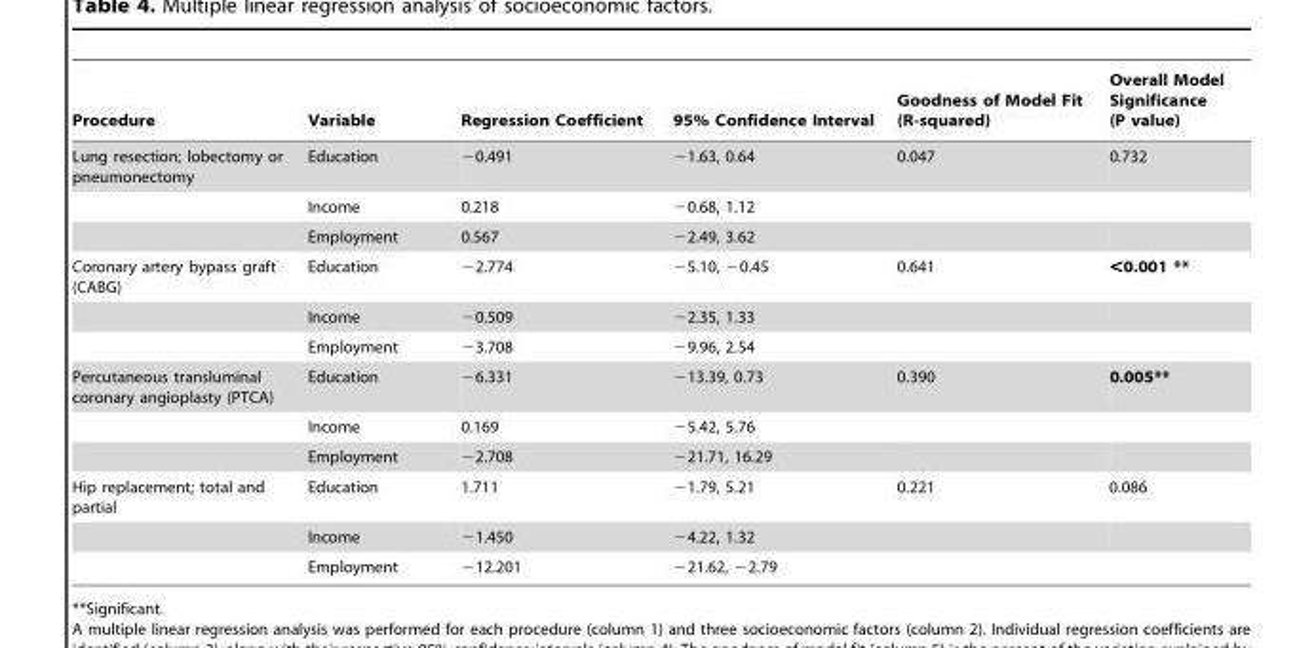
<table><thead><tr><td>Procedure</td><td>Variable</td><td>Regression Coefficient</td><td>95% Confidence Interval</td><td>Goodness of Model Fit (R-squared)</td><td>Overall Model Significance (P value)</td></tr></thead><tbody><tr><td rowspan="3">Lung resection; lobectomy or pneumonectomy</td><td>Education</td><td>−0.491</td><td>−1.63, 0.64</td><td>0.047</td><td>0.732</td></tr><tr><td>Income</td><td>0.218</td><td>−0.68, 1.12</td><td></td><td></td></tr><tr><td>Employment</td><td>0.567</td><td>−2.49, 3.62</td><td></td><td></td></tr><tr><td rowspan="3">Coronary artery bypass graft (CABG)</td><td>Education</td><td>−2.774</td><td>−5.10, −0.45</td><td>0.641</td><td>&lt;0.001 **</td></tr><tr><td>Income</td><td>−0.509</td><td>−2.35, 1.33</td><td></td><td></td></tr><tr><td>Employment</td><td>−3.708</td><td>−9.96, 2.54</td><td></td><td></td></tr><tr><td rowspan="3">Percutaneous transluminal coronary angioplasty (PTCA)</td><td>Education</td><td>−6.331</td><td>−13.39, 0.73</td><td>0.390</td><td>0.005**</td></tr><tr><td>Income</td><td>0.169</td><td>−5.42, 5.76</td><td></td><td></td></tr><tr><td>Employment</td><td>−2.708</td><td>−21.71, 16.29</td><td></td><td></td></tr><tr><td rowspan="3">Hip replacement; total and partial</td><td>Education</td><td>1.711</td><td>−1.79, 5.21</td><td>0.221</td><td>0.086</td></tr><tr><td>Income</td><td>−1.450</td><td>−4.22, 1.32</td><td></td><td></td></tr><tr><td>Employment</td><td>−12.201</td><td>−21.62, −2.79</td><td></td><td></td></tr></tbody></table>